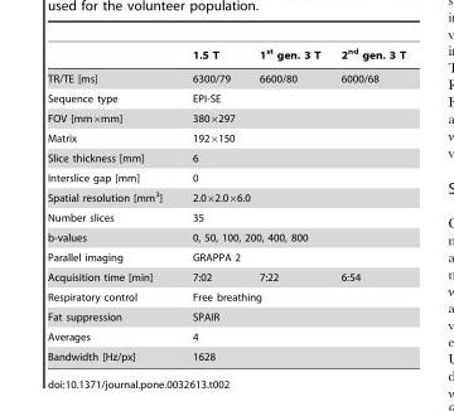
<table><thead><tr><td></td><td>1.5 T</td><td>1<sup>st</sup> gen. 3 T</td><td>2<sup>nd</sup> gen. 3 T</td></tr></thead><tbody><tr><td>TR/TE [ms]</td><td>6300/79</td><td>6600/80</td><td>6000/68</td></tr><tr><td>Sequence type</td><td colspan="3">EPI-SE</td></tr><tr><td>FOV [mm×mm]</td><td colspan="3">380×297</td></tr><tr><td>Matrix</td><td colspan="3">192×150</td></tr><tr><td>Slice thickness [mm]</td><td colspan="3">6</td></tr><tr><td>Interslice gap [mm]</td><td colspan="3">0</td></tr><tr><td>Spatial resolution [mm<sup>3</sup>]</td><td colspan="3">2.0×2.0×6.0</td></tr><tr><td>Number slices</td><td colspan="3">35</td></tr><tr><td>b-values</td><td colspan="3">0, 50, 100, 200, 400, 800</td></tr><tr><td>Parallel imaging</td><td colspan="3">GRAPPA 2</td></tr><tr><td>Acquisition time [min]</td><td>7:02</td><td>7:22</td><td>6:54</td></tr><tr><td>Respiratory control</td><td colspan="3">Free breathing</td></tr><tr><td>Fat suppression</td><td colspan="3">SPAIR</td></tr><tr><td>Averages</td><td colspan="3">4</td></tr><tr><td>Bandwidth [Hz/px]</td><td colspan="3">1628</td></tr></tbody></table>